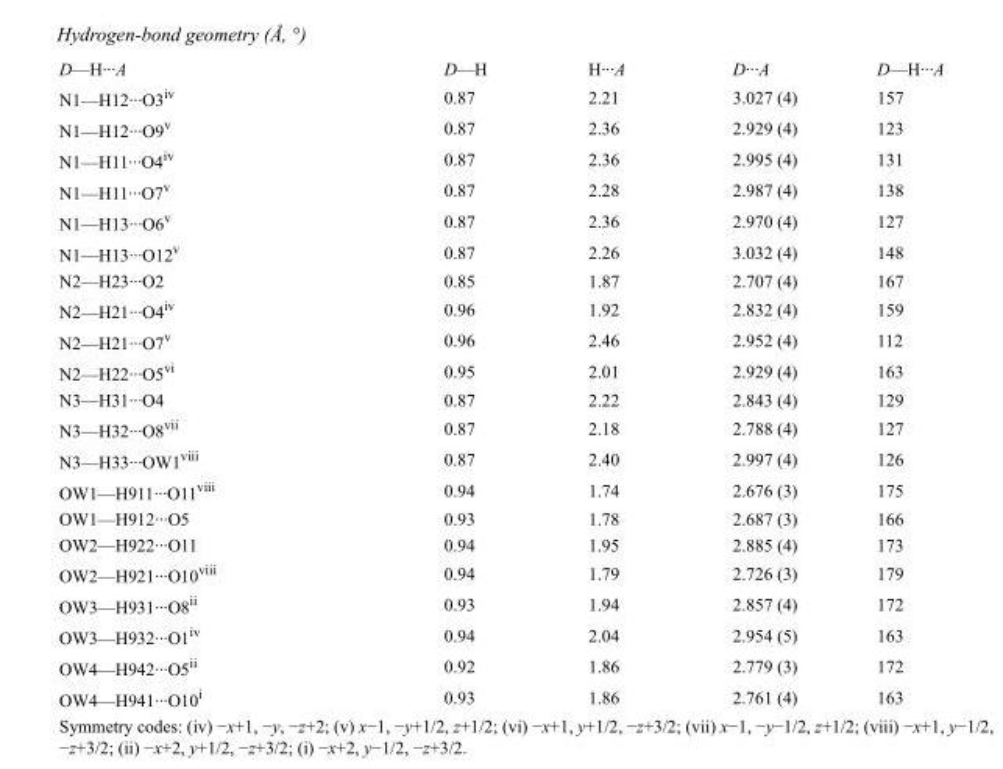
<table><tbody><tr><td>D—H···A</td><td>D—H</td><td>H···A</td><td>D···A</td><td>D—H···A</td></tr><tr><td>N1—H12···O3<sup>iv</sup></td><td>0.87</td><td>2.21</td><td>3.027 (4)</td><td>157</td></tr><tr><td>N1—H12···O9<sup>v</sup></td><td>0.87</td><td>2.36</td><td>2.929 (4)</td><td>123</td></tr><tr><td>N1—H11···O4<sup>iv</sup></td><td>0.87</td><td>2.36</td><td>2.995 (4)</td><td>131</td></tr><tr><td>N1—H11···O7<sup>v</sup></td><td>0.87</td><td>2.28</td><td>2.987 (4)</td><td>138</td></tr><tr><td>N1—H13···O6<sup>v</sup></td><td>0.87</td><td>2.36</td><td>2.970 (4)</td><td>127</td></tr><tr><td>N1—H13···O12<sup>v</sup></td><td>0.87</td><td>2.26</td><td>3.032 (4)</td><td>148</td></tr><tr><td>N2—H23···O2</td><td>0.85</td><td>1.87</td><td>2.707 (4)</td><td>167</td></tr><tr><td>N2—H21···O4<sup>iv</sup></td><td>0.96</td><td>1.92</td><td>2.832 (4)</td><td>159</td></tr><tr><td>N2—H21···O7<sup>v</sup></td><td>0.96</td><td>2.46</td><td>2.952 (4)</td><td>112</td></tr><tr><td>N2—H22···O5<sup>vi</sup></td><td>0.95</td><td>2.01</td><td>2.929 (4)</td><td>163</td></tr><tr><td>N3—H31···O4</td><td>0.87</td><td>2.22</td><td>2.843 (4)</td><td>129</td></tr><tr><td>N3—H32···O8<sup>vii</sup></td><td>0.87</td><td>2.18</td><td>2.788 (4)</td><td>127</td></tr><tr><td>N3—H33···OW1<sup>viii</sup></td><td>0.87</td><td>2.40</td><td>2.997 (4)</td><td>126</td></tr><tr><td>OW1—H911···O11<sup>viii</sup></td><td>0.94</td><td>1.74</td><td>2.676 (3)</td><td>175</td></tr><tr><td>OW1—H912···O5</td><td>0.93</td><td>1.78</td><td>2.687 (3)</td><td>166</td></tr><tr><td>OW2—H922···O11</td><td>0.94</td><td>1.95</td><td>2.885 (4)</td><td>173</td></tr><tr><td>OW2—H921···O10<sup>viii</sup></td><td>0.94</td><td>1.79</td><td>2.726 (3)</td><td>179</td></tr><tr><td>OW3—H931···O8<sup>ii</sup></td><td>0.93</td><td>1.94</td><td>2.857 (4)</td><td>172</td></tr><tr><td>OW3—H932···O1<sup>iv</sup></td><td>0.94</td><td>2.04</td><td>2.954 (5)</td><td>163</td></tr><tr><td>OW4—H942···O5<sup>ii</sup></td><td>0.92</td><td>1.86</td><td>2.779 (3)</td><td>172</td></tr><tr><td>OW4—H941···O10<sup>i</sup></td><td>0.93</td><td>1.86</td><td>2.761 (4)</td><td>163</td></tr></tbody></table>